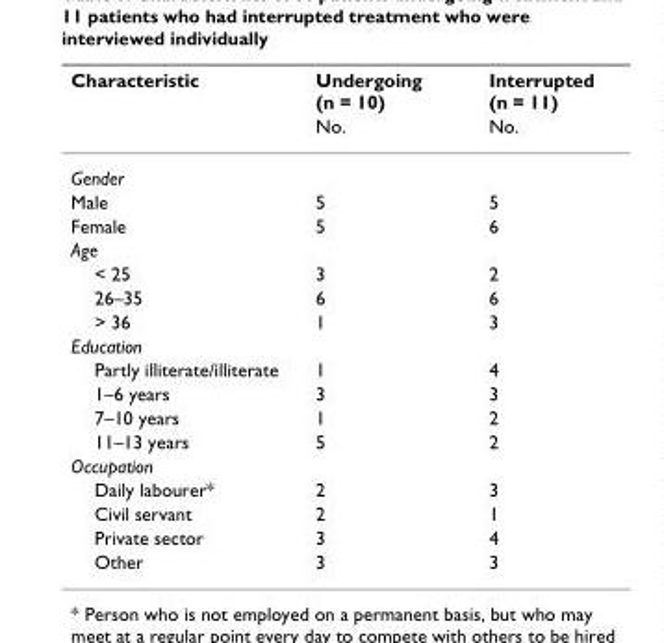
<table><thead><tr><td rowspan="2">Characteristic</td><td rowspan="2">Undergoing (n = 10) No.</td><td rowspan="2">Interrupted (n = 11) No.</td></tr><tr></tr></thead><tbody><tr><td colspan="3">Gender</td></tr><tr><td>Male</td><td>5</td><td>5</td></tr><tr><td>Female</td><td>5</td><td>6</td></tr><tr><td colspan="3">Age</td></tr><tr><td>&lt; 25</td><td>3</td><td>2</td></tr><tr><td>26–35</td><td>6</td><td>6</td></tr><tr><td>&gt; 36</td><td>1</td><td>3</td></tr><tr><td colspan="3">Education</td></tr><tr><td>Partly illiterate/illiterate</td><td>1</td><td>4</td></tr><tr><td>1–6 years</td><td>3</td><td>3</td></tr><tr><td>7–10 years</td><td>1</td><td>2</td></tr><tr><td>11–13 years</td><td>5</td><td>2</td></tr><tr><td colspan="3">Occupation</td></tr><tr><td>Daily labourer*</td><td>2</td><td>3</td></tr><tr><td>Civil servant</td><td>2</td><td>1</td></tr><tr><td>Private sector</td><td>3</td><td>4</td></tr><tr><td>Other</td><td>3</td><td>3</td></tr></tbody></table>